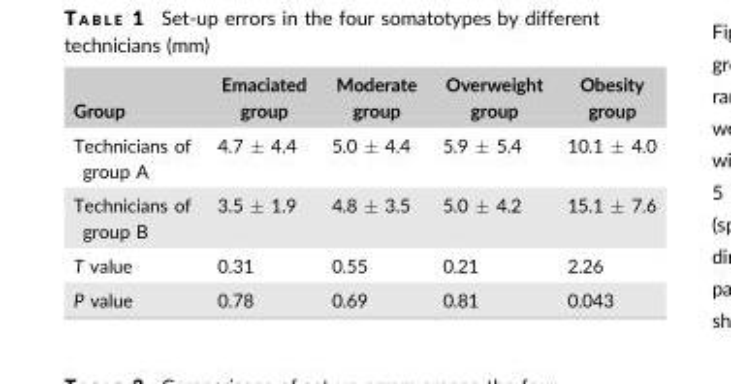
<table><thead><tr><td>Group</td><td>Emaciated group</td><td>Moderate group</td><td>Overweight group</td><td>Obesity group</td></tr></thead><tbody><tr><td>Technicians of group A</td><td>4.7 ± 4.4</td><td>5.0 ± 4.4</td><td>5.9 ± 5.4</td><td>10.1 ± 4.0</td></tr><tr><td>Technicians of group B</td><td>3.5 ± 1.9</td><td>4.8 ± 3.5</td><td>5.0 ± 4.2</td><td>15.1 ± 7.6</td></tr><tr><td>T value</td><td>0.31</td><td>0.55</td><td>0.21</td><td>2.26</td></tr><tr><td>P value</td><td>0.78</td><td>0.69</td><td>0.81</td><td>0.043</td></tr></tbody></table>